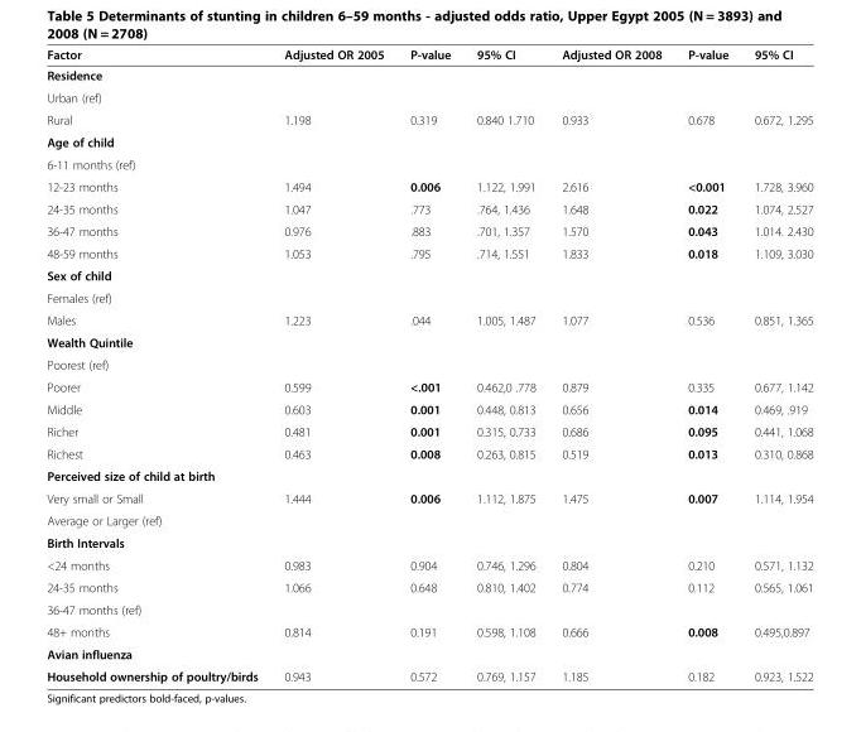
<table><thead><tr><td>Factor</td><td>Adjusted OR 2005</td><td>P-value</td><td>95% CI</td><td>Adjusted OR 2008</td><td>P-value</td><td>95% CI</td></tr></thead><tbody><tr><td colspan="7">Residence</td></tr><tr><td colspan="7">Urban (ref)</td></tr><tr><td>Rural</td><td>1.198</td><td>0.319</td><td>0.840 1.710</td><td>0.933</td><td>0.678</td><td>0.672, 1.295</td></tr><tr><td colspan="7">Age of child</td></tr><tr><td colspan="7">6-11 months (ref)</td></tr><tr><td>12-23 months</td><td>1.494</td><td>0.006</td><td>1.122, 1.991</td><td>2.616</td><td>&lt;0.001</td><td>1.728, 3.960</td></tr><tr><td>24-35 months</td><td>1.047</td><td>.773</td><td>.764, 1.436</td><td>1.648</td><td>0.022</td><td>1.074, 2.527</td></tr><tr><td>36-47 months</td><td>0.976</td><td>.883</td><td>.701, 1.357</td><td>1.570</td><td>0.043</td><td>1.014. 2.430</td></tr><tr><td>48-59 months</td><td>1.053</td><td>.795</td><td>.714, 1.551</td><td>1.833</td><td>0.018</td><td>1.109, 3.030</td></tr><tr><td colspan="7">Sex of child</td></tr><tr><td colspan="7">Females (ref)</td></tr><tr><td>Males</td><td>1.223</td><td>.044</td><td>1.005, 1.487</td><td>1.077</td><td>0.536</td><td>0.851, 1.365</td></tr><tr><td colspan="7">Wealth Quintile</td></tr><tr><td colspan="7">Poorest (ref)</td></tr><tr><td>Poorer</td><td>0.599</td><td>&lt;.001</td><td>0.462,0 .778</td><td>0.879</td><td>0.335</td><td>0.677, 1.142</td></tr><tr><td>Middle</td><td>0.603</td><td>0.001</td><td>0.448, 0.813</td><td>0.656</td><td>0.014</td><td>0.469, .919</td></tr><tr><td>Richer</td><td>0.481</td><td>0.001</td><td>0.315, 0.733</td><td>0.686</td><td>0.095</td><td>0.441, 1.068</td></tr><tr><td>Richest</td><td>0.463</td><td>0.008</td><td>0.263, 0.815</td><td>0.519</td><td>0.013</td><td>0.310, 0.868</td></tr><tr><td colspan="7">Perceived size of child at birth</td></tr><tr><td>Very small or Small</td><td>1.444</td><td>0.006</td><td>1.112, 1.875</td><td>1.475</td><td>0.007</td><td>1.114, 1.954</td></tr><tr><td colspan="7">Average or Larger (ref)</td></tr><tr><td colspan="7">Birth Intervals</td></tr><tr><td>&lt;24 months</td><td>0.983</td><td>0.904</td><td>0.746, 1.296</td><td>0.804</td><td>0.210</td><td>0.571, 1.132</td></tr><tr><td>24-35 months</td><td>1.066</td><td>0.648</td><td>0.810, 1.402</td><td>0.774</td><td>0.112</td><td>0.565, 1.061</td></tr><tr><td colspan="7">36-47 months (ref)</td></tr><tr><td>48+ months</td><td>0.814</td><td>0.191</td><td>0.598, 1.108</td><td>0.666</td><td>0.008</td><td>0.495,0.897</td></tr><tr><td colspan="7">Avian influenza</td></tr><tr><td>Household ownership of poultry/birds</td><td>0.943</td><td>0.572</td><td>0.769, 1.157</td><td>1.185</td><td>0.182</td><td>0.923, 1.522</td></tr></tbody></table>